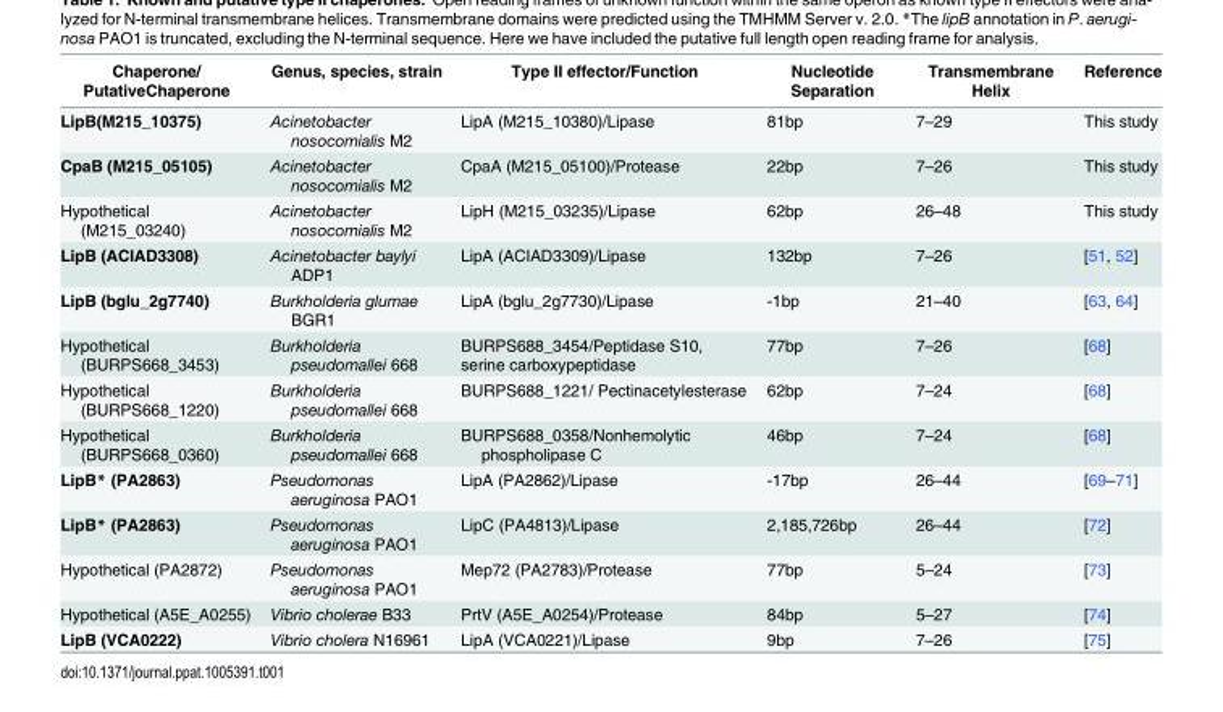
<table><thead><tr><td>Chaperone/ PutativeChaperone</td><td>Genus, species, strain</td><td>Type II effector/Function</td><td>Nucleotide Separation</td><td>Transmembrane Helix</td><td>Reference</td></tr></thead><tbody><tr><td>LipB(M215_10375)</td><td>Acinetobacter nosocomialis M2</td><td>LipA (M215_10380)/Lipase</td><td>81bp</td><td>7–29</td><td>This study</td></tr><tr><td>CpaB (M215_05105)</td><td>Acinetobacter nosocomialis M2</td><td>CpaA (M215_05100)/Protease</td><td>22bp</td><td>7–26</td><td>This study</td></tr><tr><td>Hypothetical (M215_03240)</td><td>Acinetobacter nosocomialis M2</td><td>LipH (M215_03235)/Lipase</td><td>62bp</td><td>26–48</td><td>This study</td></tr><tr><td>LipB (ACIAD3308)</td><td>Acinetobacter baylyi ADP1</td><td>LipA (ACIAD3309)/Lipase</td><td>132bp</td><td>7–26</td><td>[51, 52]</td></tr><tr><td>LipB (bglu_2g7740)</td><td>Burkholderia glumae BGR1</td><td>LipA (bglu_2g7730)/Lipase</td><td>-1bp</td><td>21–40</td><td>[63, 64]</td></tr><tr><td>Hypothetical (BURPS668_3453)</td><td>Burkholderia pseudomallei 668</td><td>BURPS688_3454/Peptidase S10, serine carboxypeptidase</td><td>77bp</td><td>7–26</td><td>[68]</td></tr><tr><td>Hypothetical (BURPS668_1220)</td><td>Burkholderia pseudomallei 668</td><td>BURPS688_1221/ Pectinacetylesterase</td><td>62bp</td><td>7–24</td><td>[68]</td></tr><tr><td>Hypothetical (BURPS668_0360)</td><td>Burkholderia pseudomallei 668</td><td>BURPS688_0358/Nonhemolytic phospholipase C</td><td>46bp</td><td>7–24</td><td>[68]</td></tr><tr><td>LipB* (PA2863)</td><td>Pseudomonas aeruginosa PAO1</td><td>LipA (PA2862)/Lipase</td><td>-17bp</td><td>26–44</td><td>[69–71]</td></tr><tr><td>LipB* (PA2863)</td><td>Pseudomonas aeruginosa PAO1</td><td>LipC (PA4813)/Lipase</td><td>2,185,726bp</td><td>26–44</td><td>[72]</td></tr><tr><td>Hypothetical (PA2872)</td><td>Pseudomonas aeruginosa PAO1</td><td>Mep72 (PA2783)/Protease</td><td>77bp</td><td>5–24</td><td>[73]</td></tr><tr><td>Hypothetical (A5E_A0255)</td><td>Vibrio cholerae B33</td><td>PrtV (A5E_A0254)/Protease</td><td>84bp</td><td>5–27</td><td>[74]</td></tr><tr><td>LipB (VCA0222)</td><td>Vibrio cholera N16961</td><td>LipA (VCA0221)/Lipase</td><td>9bp</td><td>7–26</td><td>[75]</td></tr></tbody></table>